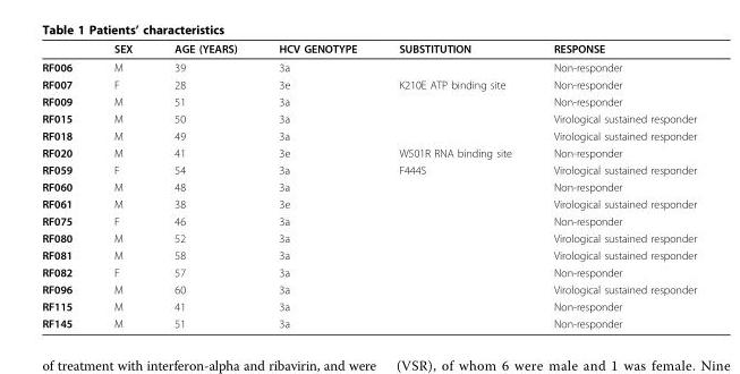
<table><thead><tr><td></td><td>SEX</td><td>AGE (YEARS)</td><td>HCV GENOTYPE</td><td>SUBSTITUTION</td><td>RESPONSE</td></tr></thead><tbody><tr><td>RF006</td><td>M</td><td>39</td><td>3a</td><td></td><td>Non-responder</td></tr><tr><td>RF007</td><td>F</td><td>28</td><td>3e</td><td>K210E ATP binding site</td><td>Non-responder</td></tr><tr><td>RF009</td><td>M</td><td>51</td><td>3a</td><td></td><td>Non-responder</td></tr><tr><td>RF015</td><td>M</td><td>50</td><td>3a</td><td></td><td>Virological sustained responder</td></tr><tr><td>RF018</td><td>M</td><td>49</td><td>3a</td><td></td><td>Virological sustained responder</td></tr><tr><td>RF020</td><td>M</td><td>41</td><td>3e</td><td>W501R RNA binding site</td><td>Non-responder</td></tr><tr><td>RF059</td><td>F</td><td>54</td><td>3a</td><td>F444S</td><td>Virological sustained responder</td></tr><tr><td>RF060</td><td>M</td><td>48</td><td>3a</td><td></td><td>Non-responder</td></tr><tr><td>RF061</td><td>M</td><td>38</td><td>3e</td><td></td><td>Virological sustained responder</td></tr><tr><td>RF075</td><td>F</td><td>46</td><td>3a</td><td></td><td>Non-responder</td></tr><tr><td>RF080</td><td>M</td><td>52</td><td>3a</td><td></td><td>Virological sustained responder</td></tr><tr><td>RF081</td><td>M</td><td>58</td><td>3a</td><td></td><td>Virological sustained responder</td></tr><tr><td>RF082</td><td>F</td><td>57</td><td>3a</td><td></td><td>Non-responder</td></tr><tr><td>RF096</td><td>M</td><td>60</td><td>3a</td><td></td><td>Virological sustained responder</td></tr><tr><td>RF115</td><td>M</td><td>41</td><td>3a</td><td></td><td>Non-responder</td></tr><tr><td>RF145</td><td>M</td><td>51</td><td>3a</td><td></td><td>Non-responder</td></tr></tbody></table>